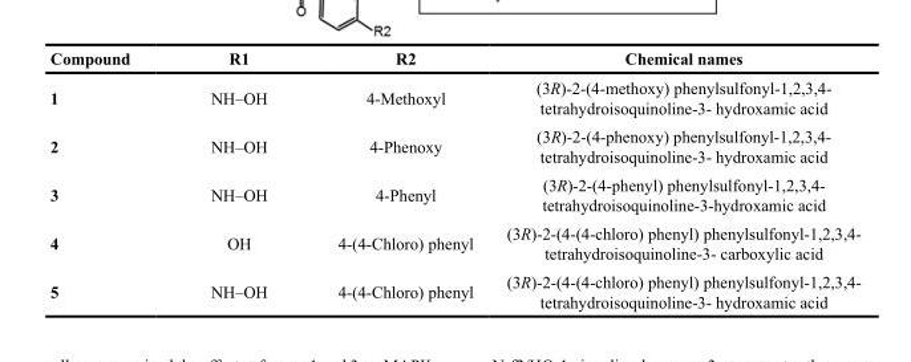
<table><thead><tr><td>Compound</td><td>R1</td><td>R2</td><td>Chemical names</td></tr></thead><tbody><tr><td>1</td><td>NH–OH</td><td>4-Methoxyl</td><td>(3R)-2-(4-methoxy) phenylsulfonyl-1,2,3,4- tetrahydroisoquinoline-3- hydroxamic acid</td></tr><tr><td>2</td><td>NH–OH</td><td>4-Phenoxy</td><td>(3R)-2-(4-phenoxy) phenylsulfonyl-1,2,3,4- tetrahydroisoquinoline-3- hydroxamic acid</td></tr><tr><td>3</td><td>NH–OH</td><td>4-Phenyl</td><td>(3R)-2-(4-phenyl) phenylsulfonyl-1,2,3,4- tetrahydroisoquinoline-3-hydroxamic acid</td></tr><tr><td>4</td><td>OH</td><td>4-(4-Chloro) phenyl</td><td>(3R)-2-(4-(4-chloro) phenyl) phenylsulfonyl-1,2,3,4- tetrahydroisoquinoline-3- carboxylic acid</td></tr><tr><td>5</td><td>NH–OH</td><td>4-(4-Chloro) phenyl</td><td>(3R)-2-(4-(4-chloro) phenyl) phenylsulfonyl-1,2,3,4- tetrahydroisoquinoline-3- hydroxamic acid</td></tr></tbody></table>